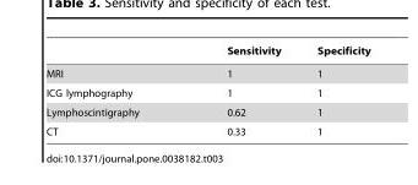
<table><thead><tr><td></td><td>Sensitivity</td><td>Specificity</td></tr></thead><tbody><tr><td>MRI</td><td>1</td><td>1</td></tr><tr><td>ICG lymphography</td><td>1</td><td>1</td></tr><tr><td>Lymphoscintigraphy</td><td>0.62</td><td>1</td></tr><tr><td>CT</td><td>0.33</td><td>1</td></tr></tbody></table>